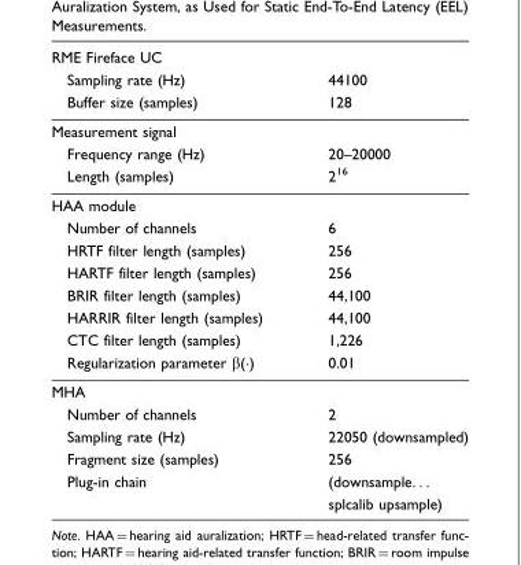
<table><tbody><tr><td colspan="2">RME Fireface UC</td></tr><tr><td>Sampling rate (Hz)</td><td>44100</td></tr><tr><td>Buffer size (samples)</td><td>128</td></tr><tr><td colspan="2">Measurement signal</td></tr><tr><td>Frequency range (Hz)</td><td>20–20000</td></tr><tr><td>Length (samples)</td><td>2<sup>16</sup></td></tr><tr><td colspan="2">HAA module</td></tr><tr><td>Number of channels</td><td>6</td></tr><tr><td>HRTF filter length (samples)</td><td>256</td></tr><tr><td>HARTF filter length (samples)</td><td>256</td></tr><tr><td>BRIR filter length (samples)</td><td>44,100</td></tr><tr><td>HARRIR filter length (samples)</td><td>44,100</td></tr><tr><td>CTC filter length (samples)</td><td>1,226</td></tr><tr><td>Regularization parameter β(·)</td><td>0.01</td></tr><tr><td colspan="2">MHA</td></tr><tr><td>Number of channels</td><td>2</td></tr><tr><td>Sampling rate (Hz)</td><td>22050 (downsampled)</td></tr><tr><td>Fragment size (samples)</td><td>256</td></tr><tr><td rowspan="2">Plug-in chain</td><td>(downsample. . .</td></tr><tr><td>splcalib upsample)</td></tr></tbody></table>